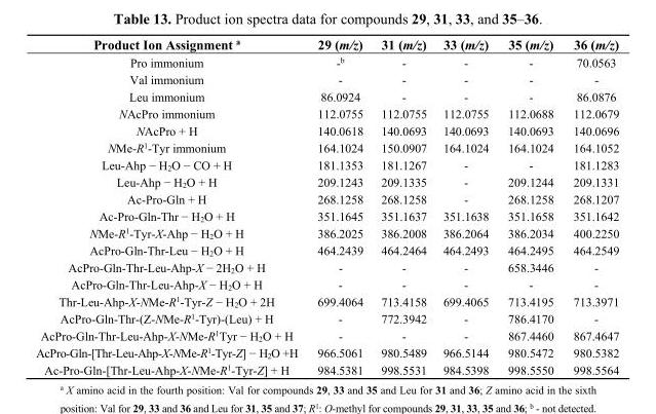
<table><thead><tr><td>Product Ion Assignment <sup>a</sup></td><td>29 (m/z)</td><td>31 (m/z)</td><td>33 (m/z)</td><td>35 (m/z)</td><td>36 (m/z)</td></tr></thead><tbody><tr><td>Pro immonium</td><td>-<sup>b</sup></td><td>-</td><td>-</td><td>-</td><td>70.0563</td></tr><tr><td>Val immonium</td><td>-</td><td>-</td><td>-</td><td>-</td><td>-</td></tr><tr><td>Leu immonium</td><td>86.0924</td><td>-</td><td>-</td><td>-</td><td>86.0876</td></tr><tr><td>NAcPro immonium</td><td>112.0755</td><td>112.0755</td><td>112.0755</td><td>112.0688</td><td>112.0679</td></tr><tr><td>NAcPro + H</td><td>140.0618</td><td>140.0693</td><td>140.0693</td><td>140.0693</td><td>140.0696</td></tr><tr><td>NMe-R<sup>1</sup>-Tyr immonium</td><td>164.1024</td><td>150.0907</td><td>164.1024</td><td>164.1024</td><td>164.1052</td></tr><tr><td>Leu-Ahp − H<sub>2</sub>O − CO + H</td><td>181.1353</td><td>181.1267</td><td>-</td><td>-</td><td>181.1283</td></tr><tr><td>Leu-Ahp − H<sub>2</sub>O + H</td><td>209.1243</td><td>209.1335</td><td>-</td><td>209.1244</td><td>209.1331</td></tr><tr><td>Ac-Pro-Gln + H</td><td>268.1258</td><td>268.1258</td><td>-</td><td>268.1258</td><td>268.1207</td></tr><tr><td>Ac-Pro-Gln-Thr − H<sub>2</sub>O + H</td><td>351.1645</td><td>351.1637</td><td>351.1638</td><td>351.1658</td><td>351.1642</td></tr><tr><td>NMe-R<sup>1</sup>-Tyr-X-Ahp − H<sub>2</sub>O + H</td><td>386.2025</td><td>386.2008</td><td>386.2064</td><td>386.2034</td><td>400.2250</td></tr><tr><td>AcPro-Gln-Thr-Leu − H<sub>2</sub>O + H</td><td>464.2439</td><td>464.2464</td><td>464.2493</td><td>464.2495</td><td>464.2549</td></tr><tr><td>AcPro-Gln-Thr-Leu-Ahp-X − 2H<sub>2</sub>O + H</td><td>-</td><td>-</td><td>-</td><td>658.3446</td><td>-</td></tr><tr><td>AcPro-Gln-Thr-Leu-Ahp-X − H<sub>2</sub>O + H</td><td>-</td><td>-</td><td>-</td><td>-</td><td>-</td></tr><tr><td>Thr-Leu-Ahp-X-NMe-R<sup>1</sup>-Tyr-Z − H<sub>2</sub>O + 2H</td><td>699.4064</td><td>713.4158</td><td>699.4065</td><td>713.4195</td><td>713.3971</td></tr><tr><td>AcPro-Gln-Thr-(Z-NMe-R<sup>1</sup>-Tyr)-(Leu) + H</td><td>-</td><td>772.3942</td><td>-</td><td>786.4170</td><td>-</td></tr><tr><td>AcPro-Gln-Thr-Leu-Ahp-X-NMe-R<sup>1</sup>Tyr − H<sub>2</sub>O + H</td><td>-</td><td>-</td><td>-</td><td>867.4460</td><td>867.4647</td></tr><tr><td>AcPro-Gln-[Thr-Leu-Ahp-X-NMe-R<sup>1</sup>-Tyr-Z] − H<sub>2</sub>O +H</td><td>966.5061</td><td>980.5489</td><td>966.5144</td><td>980.5472</td><td>980.5382</td></tr><tr><td>Ac-Pro-Gln-[Thr-Leu-Ahp-X-NMe-R<sup>1</sup>-Tyr-Z] + H</td><td>984.5381</td><td>998.5531</td><td>984.5398</td><td>998.5550</td><td>998.5564</td></tr></tbody></table>